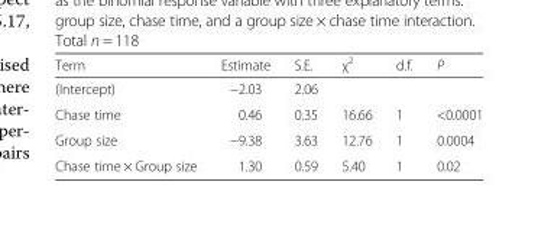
<table><thead><tr><td>Term</td><td>Estimate</td><td>S.E.</td><td>χ<sup>2</sup></td><td>d.f.</td><td>P</td></tr></thead><tbody><tr><td>(Intercept)</td><td>−2.03</td><td>2.06</td><td></td><td></td><td></td></tr><tr><td>Chase time</td><td>0.46</td><td>0.35</td><td>16.66</td><td>1</td><td>&lt;0.0001</td></tr><tr><td>Group size</td><td>−9.38</td><td>3.63</td><td>12.76</td><td>1</td><td>0.0004</td></tr><tr><td>Chase time × Group size</td><td>1.30</td><td>0.59</td><td>5.40</td><td>1</td><td>0.02</td></tr></tbody></table>